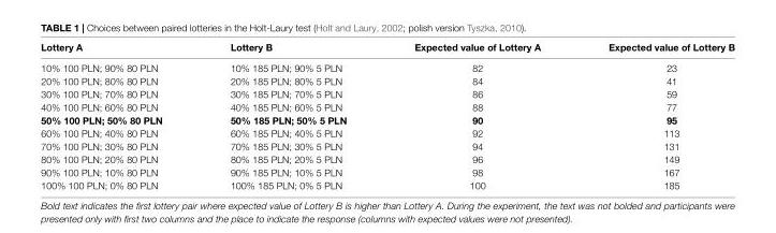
<table><thead><tr><td>Lottery A</td><td>Lottery B</td><td>Expected value of Lottery A</td><td>Expected value of Lottery B</td></tr></thead><tbody><tr><td>10% 100 PLN; 90% 80 PLN</td><td>10% 185 PLN; 90% 5 PLN</td><td>82</td><td>23</td></tr><tr><td>20% 100 PLN; 80% 80 PLN</td><td>20% 185 PLN; 80% 5 PLN</td><td>84</td><td>41</td></tr><tr><td>30% 100 PLN; 70% 80 PLN</td><td>30% 185 PLN; 70% 5 PLN</td><td>86</td><td>59</td></tr><tr><td>40% 100 PLN; 60% 80 PLN</td><td>40% 185 PLN; 60% 5 PLN</td><td>88</td><td>77</td></tr><tr><td>50% 100 PLN; 50% 80 PLN</td><td>50% 185 PLN; 50% 5 PLN</td><td>90</td><td>95</td></tr><tr><td>60% 100 PLN; 40% 80 PLN</td><td>60% 185 PLN; 40% 5 PLN</td><td>92</td><td>113</td></tr><tr><td>70% 100 PLN; 30% 80 PLN</td><td>70% 185 PLN; 30% 5 PLN</td><td>94</td><td>131</td></tr><tr><td>80% 100 PLN; 20% 80 PLN</td><td>80% 185 PLN; 20% 5 PLN</td><td>96</td><td>149</td></tr><tr><td>90% 100 PLN; 10% 80 PLN</td><td>90% 185 PLN; 10% 5 PLN</td><td>98</td><td>167</td></tr><tr><td>100% 100 PLN; 0% 80 PLN</td><td>100% 185 PLN; 0% 5 PLN</td><td>100</td><td>185</td></tr></tbody></table>